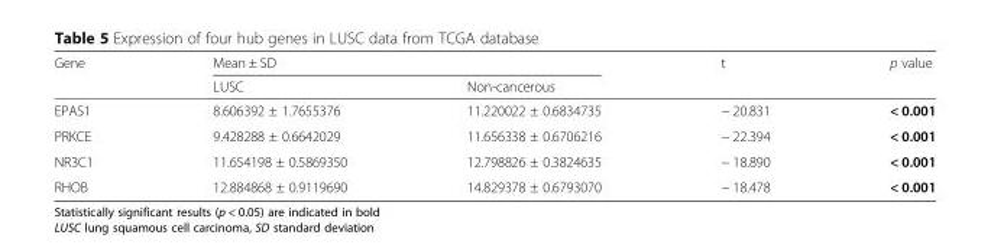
<table><thead><tr><td rowspan="2">Gene</td><td colspan="2">Mean ± SD</td><td rowspan="2">t</td><td rowspan="2">p value</td></tr><tr><td>LUSC</td><td>Non-cancerous</td></tr></thead><tbody><tr><td>EPAS1</td><td>8.606392 ± 1.7655376</td><td>11.220022 ± 0.6834735</td><td>− 20.831</td><td>&lt; 0.001</td></tr><tr><td>PRKCE</td><td>9.428288 ± 0.6642029</td><td>11.656338 ± 0.6706216</td><td>− 22.394</td><td>&lt; 0.001</td></tr><tr><td>NR3C1</td><td>11.654198 ± 0.5869350</td><td>12.798826 ± 0.3824635</td><td>− 18.890</td><td>&lt; 0.001</td></tr><tr><td>RHOB</td><td>12.884868 ± 0.9119690</td><td>14.829378 ± 0.6793070</td><td>− 18.478</td><td>&lt; 0.001</td></tr></tbody></table>